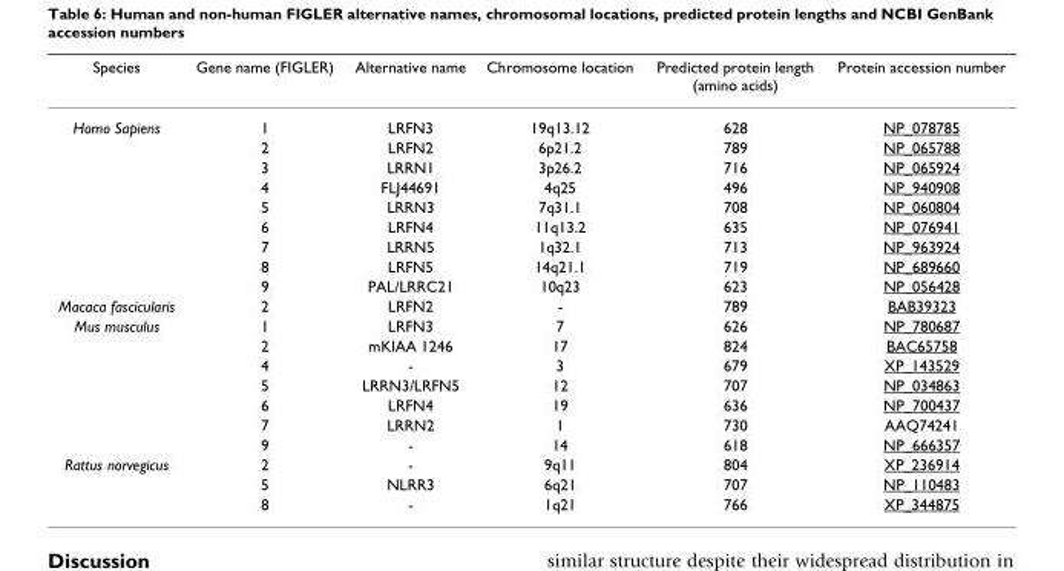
<table><thead><tr><td>Species</td><td>Gene name (FIGLER)</td><td>Alternative name</td><td>Chromosome location</td><td>Predicted protein length (amino acids)</td><td>Protein accession number</td></tr></thead><tbody><tr><td rowspan="9">Homo Sapiens</td><td>1</td><td>LRFN3</td><td>19q13.12</td><td>628</td><td>NP_078785</td></tr><tr><td>2</td><td>LRFN2</td><td>6p21.2</td><td>789</td><td>NP_065788</td></tr><tr><td>3</td><td>LRRN1</td><td>3p26.2</td><td>716</td><td>NP_065924</td></tr><tr><td>4</td><td>FLJ44691</td><td>4q25</td><td>496</td><td>NP_940908</td></tr><tr><td>5</td><td>LRRN3</td><td>7q31.1</td><td>708</td><td>NP_060804</td></tr><tr><td>6</td><td>LRFN4</td><td>11q13.2</td><td>635</td><td>NP_076941</td></tr><tr><td>7</td><td>LRRN5</td><td>1q32.1</td><td>713</td><td>NP_963924</td></tr><tr><td>8</td><td>LRFN5</td><td>14q21.1</td><td>719</td><td>NP_689660</td></tr><tr><td>9</td><td>PAL/LRRC21</td><td>10q23</td><td>623</td><td>NP_056428</td></tr><tr><td>Macaca fascicularis</td><td>2</td><td>LRFN2</td><td>-</td><td>789</td><td>BAB39323</td></tr><tr><td rowspan="7">Mus musculus</td><td>1</td><td>LRFN3</td><td>7</td><td>626</td><td>NP_780687</td></tr><tr><td>2</td><td>mKIAA 1246</td><td>17</td><td>824</td><td>BAC65758</td></tr><tr><td>4</td><td>-</td><td>3</td><td>679</td><td>XP_143529</td></tr><tr><td>5</td><td>LRRN3/LRFN5</td><td>12</td><td>707</td><td>NP_034863</td></tr><tr><td>6</td><td>LRFN4</td><td>19</td><td>636</td><td>NP_700437</td></tr><tr><td>7</td><td>LRRN2</td><td>1</td><td>730</td><td>AAQ74241</td></tr><tr><td>9</td><td>-</td><td>14</td><td>618</td><td>NP_666357</td></tr><tr><td rowspan="3">Rattus norvegicus</td><td>2</td><td>-</td><td>9q11</td><td>804</td><td>XP_236914</td></tr><tr><td>5</td><td>NLRR3</td><td>6q21</td><td>707</td><td>NP_110483</td></tr><tr><td>8</td><td>-</td><td>1q21</td><td>766</td><td>XP_344875</td></tr></tbody></table>